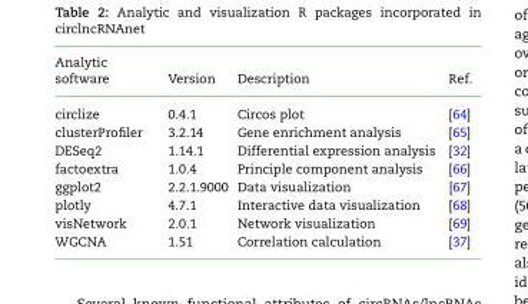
<table><thead><tr><td>Analytic software</td><td>Version</td><td>Description</td><td>Ref.</td></tr></thead><tbody><tr><td>circlize</td><td>0.4.1</td><td>Circos plot</td><td>[64]</td></tr><tr><td>clusterProfiler</td><td>3.2.14</td><td>Gene enrichment analysis</td><td>[65]</td></tr><tr><td>DESeq2</td><td>1.14.1</td><td>Differential expression analysis</td><td>[32]</td></tr><tr><td>factoextra</td><td>1.0.4</td><td>Principle component analysis</td><td>[66]</td></tr><tr><td>ggplot2</td><td>2.2.1.9000</td><td>Data visualization</td><td>[67]</td></tr><tr><td>plotly</td><td>4.7.1</td><td>Interactive data visualization</td><td>[68]</td></tr><tr><td>visNetwork</td><td>2.0.1</td><td>Network visualization</td><td>[69]</td></tr><tr><td>WGCNA</td><td>1.51</td><td>Correlation calculation</td><td>[37]</td></tr></tbody></table>